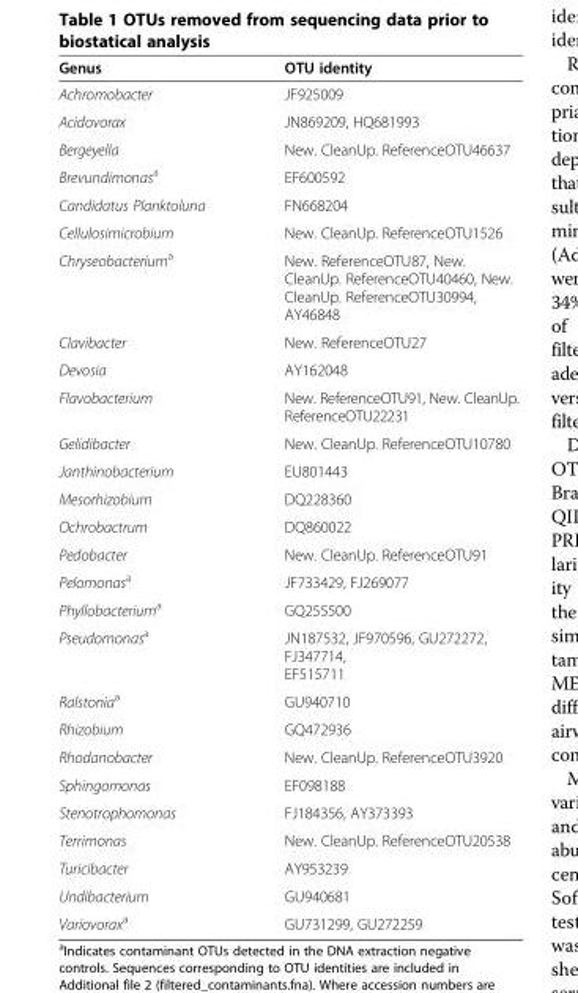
<table><thead><tr><td>Genus</td><td>OTU identity</td></tr></thead><tbody><tr><td>Achromobacter</td><td>JF925009</td></tr><tr><td>Acidovorax</td><td>JN869209, HQ681993</td></tr><tr><td>Bergeyella</td><td>New. CleanUp. ReferenceOTU46637</td></tr><tr><td>Brevundimonas<sup>a</sup></td><td>EF600592</td></tr><tr><td>Candidatus Planktoluna</td><td>FN668204</td></tr><tr><td>Cellulosimicrobium</td><td>New. CleanUp. ReferenceOTU1526</td></tr><tr><td>Chryseobacterium<sup>a</sup></td><td>New. ReferenceOTU87, New. CleanUp. ReferenceOTU40460, New. CleanUp. ReferenceOTU30994, AY46848</td></tr><tr><td>Clavibacter</td><td>New. ReferenceOTU27</td></tr><tr><td>Devosia</td><td>AY162048</td></tr><tr><td>Flavobacterium</td><td>New. ReferenceOTU91, New. CleanUp. ReferenceOTU22231</td></tr><tr><td>Gelidibacter</td><td>New. CleanUp. ReferenceOTU10780</td></tr><tr><td>Janthinobacterium</td><td>EU801443</td></tr><tr><td>Mesorhizobium</td><td>DQ228360</td></tr><tr><td>Ochrobactrum</td><td>DQ860022</td></tr><tr><td>Pedobacter</td><td>New. CleanUp. ReferenceOTU91</td></tr><tr><td>Pelomonas<sup>a</sup></td><td>JF733429, FJ269077</td></tr><tr><td>Phyllobacterium<sup>a</sup></td><td>GQ255500</td></tr><tr><td>Pseudomonas<sup>a</sup></td><td>JN187532, JF970596, GU272272, FJ347714, EF515711</td></tr><tr><td>Ralstonia<sup>a</sup></td><td>GU940710</td></tr><tr><td>Rhizobium</td><td>GQ472936</td></tr><tr><td>Rhodanobacter</td><td>New. CleanUp. ReferenceOTU3920</td></tr><tr><td>Sphingomonas</td><td>EF098188</td></tr><tr><td>Stenotrophomonas</td><td>FJ184356, AY373393</td></tr><tr><td>Terrimonas</td><td>New. CleanUp. ReferenceOTU20538</td></tr><tr><td>Turicibacter</td><td>AY953239</td></tr><tr><td>Undibacterium</td><td>GU940681</td></tr><tr><td>Variovorax<sup>a</sup></td><td>GU731299, GU272259</td></tr></tbody></table>